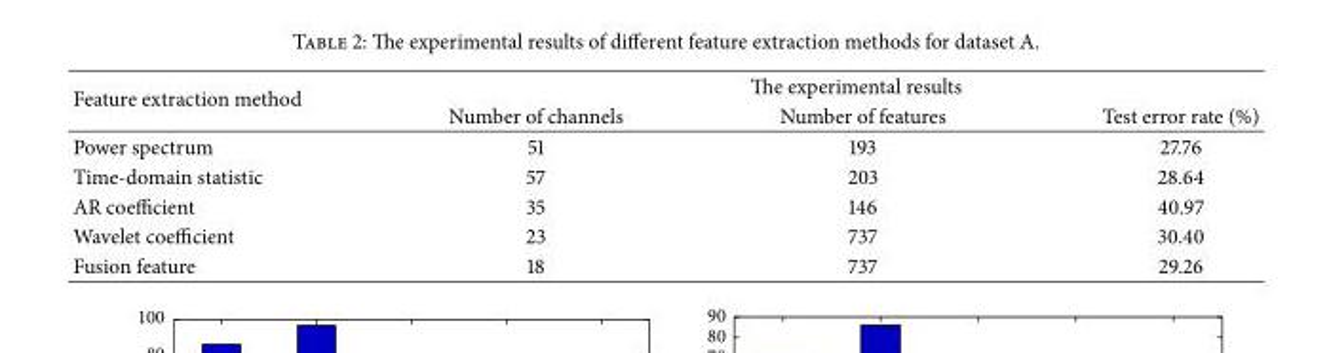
<table><thead><tr><td rowspan="2">Feature extraction method</td><td colspan="3">The experimental results</td></tr><tr><td>Number of channels</td><td>Number of features</td><td>Test error rate (%)</td></tr></thead><tbody><tr><td>Power spectrum</td><td>51</td><td>193</td><td>27.76</td></tr><tr><td>Time-domain statistic</td><td>57</td><td>203</td><td>28.64</td></tr><tr><td>AR coefficient</td><td>35</td><td>146</td><td>40.97</td></tr><tr><td>Wavelet coefficient</td><td>23</td><td>737</td><td>30.40</td></tr><tr><td>Fusion feature</td><td>18</td><td>737</td><td>29.26</td></tr></tbody></table>